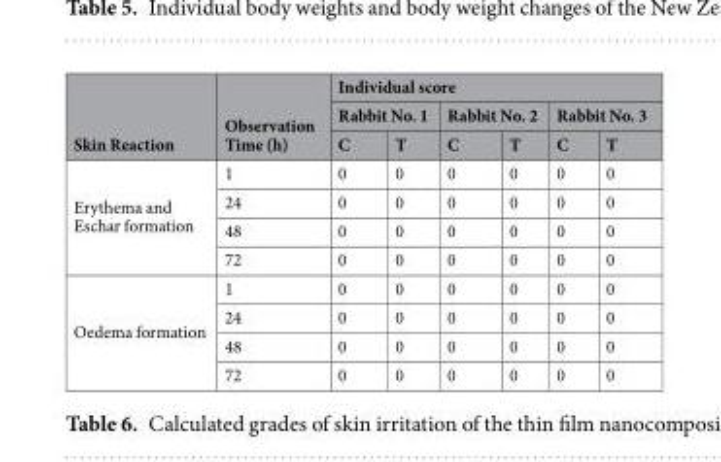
<table><thead><tr><td rowspan="3">Skin Reaction</td><td rowspan="3">Observation Time (h)</td><td colspan="6">Individual score</td></tr><tr><td colspan="2">Rabbit No. 1</td><td colspan="2">Rabbit No. 2</td><td colspan="2">Rabbit No. 3</td></tr><tr><td>C</td><td>T</td><td>C</td><td>T</td><td>C</td><td>T</td></tr></thead><tbody><tr><td rowspan="4">Erythema and Eschar formation</td><td>1</td><td>0</td><td>0</td><td>0</td><td>0</td><td>0</td><td>0</td></tr><tr><td>24</td><td>0</td><td>0</td><td>0</td><td>0</td><td>0</td><td>0</td></tr><tr><td>48</td><td>0</td><td>0</td><td>0</td><td>0</td><td>0</td><td>0</td></tr><tr><td>72</td><td>0</td><td>0</td><td>0</td><td>0</td><td>0</td><td>0</td></tr><tr><td rowspan="4">Oedema formation</td><td>1</td><td>0</td><td>0</td><td>0</td><td>0</td><td>0</td><td>0</td></tr><tr><td>24</td><td>0</td><td>0</td><td>0</td><td>0</td><td>0</td><td>0</td></tr><tr><td>48</td><td>0</td><td>0</td><td>0</td><td>0</td><td>0</td><td>0</td></tr><tr><td>72</td><td>0</td><td>0</td><td>0</td><td>0</td><td>0</td><td>0</td></tr></tbody></table>